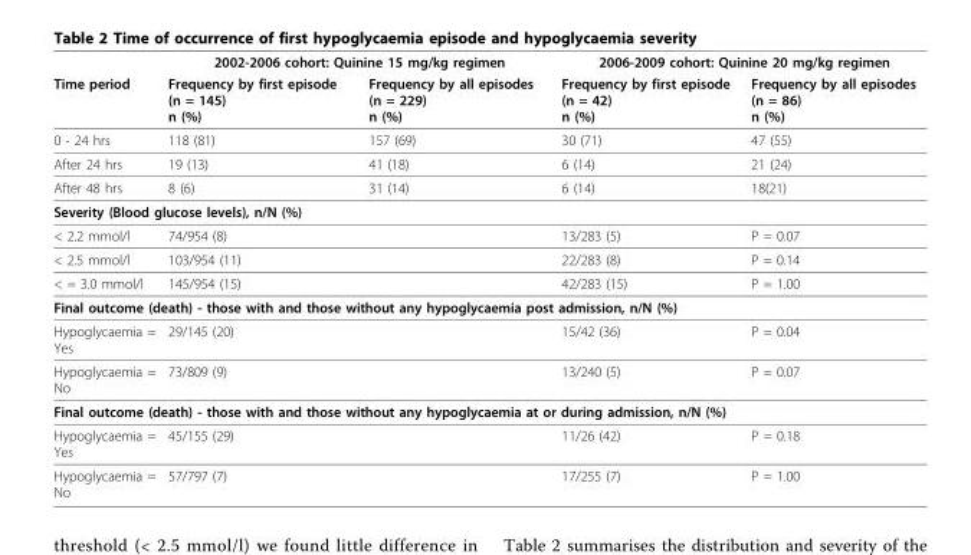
<table><thead><tr><td rowspan="2">Time period</td><td colspan="2">2002-2006 cohort: Quinine 15 mg/kg regimen</td><td colspan="2">2006-2009 cohort: Quinine 20 mg/kg regimen</td></tr><tr><td>Frequency by first episode (n = 145) n (%)</td><td>Frequency by all episodes (n = 229) n (%)</td><td>Frequency by first episode (n = 42) n (%)</td><td>Frequency by all episodes (n = 86) n (%)</td></tr></thead><tbody><tr><td>0 - 24 hrs</td><td>118 (81)</td><td>157 (69)</td><td>30 (71)</td><td>47 (55)</td></tr><tr><td>After 24 hrs</td><td>19 (13)</td><td>41 (18)</td><td>6 (14)</td><td>21 (24)</td></tr><tr><td>After 48 hrs</td><td>8 (6)</td><td>31 (14)</td><td>6 (14)</td><td>18(21)</td></tr><tr><td colspan="5">Severity (Blood glucose levels), n/N (%)</td></tr><tr><td>&lt; 2.2 mmol/l</td><td colspan="2">74/954 (8)</td><td>13/283 (5)</td><td>P = 0.07</td></tr><tr><td>&lt; 2.5 mmol/l</td><td colspan="2">103/954 (11)</td><td>22/283 (8)</td><td>P = 0.14</td></tr><tr><td>&lt; = 3.0 mmol/l</td><td colspan="2">145/954 (15)</td><td>42/283 (15)</td><td>P = 1.00</td></tr><tr><td colspan="5">Final outcome (death) - those with and those without any hypoglycaemia post admission, n/N (%)</td></tr><tr><td>Hypoglycaemia = Yes</td><td colspan="2">29/145 (20)</td><td>15/42 (36)</td><td>P = 0.04</td></tr><tr><td>Hypoglycaemia = No</td><td colspan="2">73/809 (9)</td><td>13/240 (5)</td><td>P = 0.07</td></tr><tr><td colspan="5">Final outcome (death) - those with and those without any hypoglycaemia at or during admission, n/N (%)</td></tr><tr><td>Hypoglycaemia = Yes</td><td colspan="2">45/155 (29)</td><td>11/26 (42)</td><td>P = 0.18</td></tr><tr><td>Hypoglycaemia = No</td><td colspan="2">57/797 (7)</td><td>17/255 (7)</td><td>P = 1.00</td></tr></tbody></table>